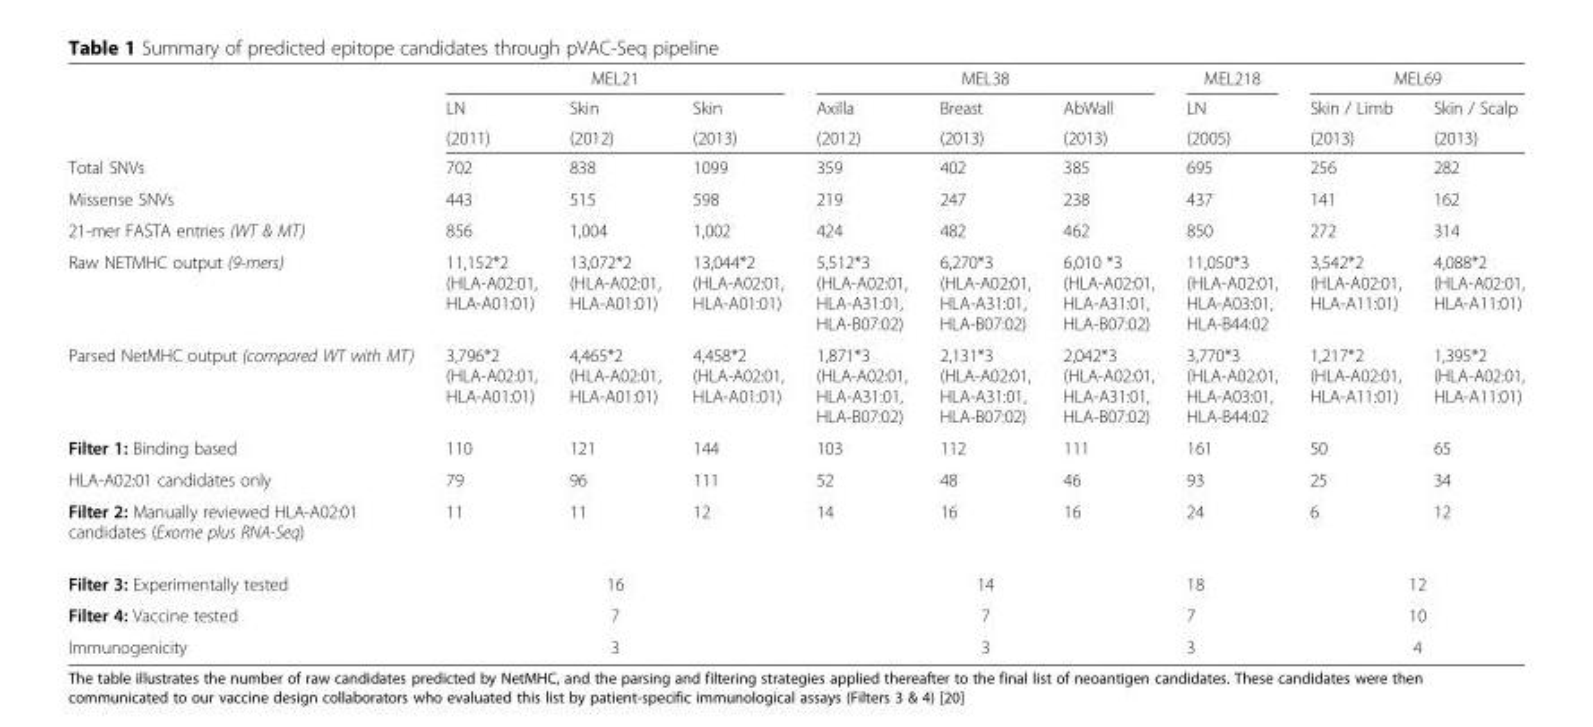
<table><thead><tr><td rowspan="3"></td><td colspan="3">MEL21</td><td colspan="3">MEL38</td><td rowspan="3">MEL218 LN (2005)</td><td colspan="2">MEL69</td></tr><tr><td rowspan="2">LN (2011)</td><td rowspan="2">Skin (2012)</td><td rowspan="2">Skin (2013)</td><td rowspan="2">Axilla (2012)</td><td rowspan="2">Breast (2013)</td><td rowspan="2">AbWall (2013)</td><td rowspan="2">Skin / Limb (2013)</td><td rowspan="2">Skin / Scalp (2013)</td></tr><tr></tr></thead><tbody><tr><td>Total SNVs</td><td>702</td><td>838</td><td>1099</td><td>359</td><td>402</td><td>385</td><td>695</td><td>256</td><td>282</td></tr><tr><td>Missense SNVs</td><td>443</td><td>515</td><td>598</td><td>219</td><td>247</td><td>238</td><td>437</td><td>141</td><td>162</td></tr><tr><td>21-mer FASTA entries (WT &amp; MT)</td><td>856</td><td>1,004</td><td>1,002</td><td>424</td><td>482</td><td>462</td><td>850</td><td>272</td><td>314</td></tr><tr><td>Raw NETMHC output (9-mers)</td><td>11,152*2 (HLA-A02:01, HLA-A01:01)</td><td>13,072*2 (HLA-A02:01, HLA-A01:01)</td><td>13,044*2 (HLA-A02:01, HLA-A01:01)</td><td>5,512*3 (HLA-A02:01, HLA-A31:01, HLA-B07:02)</td><td>6,270*3 (HLA-A02:01, HLA-A31:01, HLA-B07:02)</td><td>6,010 *3 (HLA-A02:01, HLA-A31:01, HLA-B07:02)</td><td>11,050*3 (HLA-A02:01, HLA-A03:01, HLA-B44:02</td><td>3,542*2 (HLA-A02:01, HLA-A11:01)</td><td>4,088*2 (HLA-A02:01, HLA-A11:01)</td></tr><tr><td>Parsed NetMHC output (compared WT with MT)</td><td>3,796*2 (HLA-A02:01, HLA-A01:01)</td><td>4,465*2 (HLA-A02:01, HLA-A01:01)</td><td>4,458*2 (HLA-A02:01, HLA-A01:01)</td><td>1,871*3 (HLA-A02:01, HLA-A31:01, HLA-B07:02)</td><td>2,131*3 (HLA-A02:01, HLA-A31:01, HLA-B07:02)</td><td>2,042*3 (HLA-A02:01, HLA-A31:01, HLA-B07:02)</td><td>3,770*3 (HLA-A02:01, HLA-A03:01, HLA-B44:02</td><td>1,217*2 (HLA-A02:01, HLA-A11:01)</td><td>1,395*2 (HLA-A02:01, HLA-A11:01)</td></tr><tr><td>Filter 1: Binding based</td><td>110</td><td>121</td><td>144</td><td>103</td><td>112</td><td>111</td><td>161</td><td>50</td><td>65</td></tr><tr><td>HLA-A02:01 candidates only</td><td>79</td><td>96</td><td>111</td><td>52</td><td>48</td><td>46</td><td>93</td><td>25</td><td>34</td></tr><tr><td>Filter 2: Manually reviewed HLA-A02:01 candidates (Exome plus RNA-Seq)</td><td>11</td><td>11</td><td>12</td><td>14</td><td>16</td><td>16</td><td>24</td><td>6</td><td>12</td></tr><tr><td>Filter 3: Experimentally tested</td><td colspan="3">16</td><td colspan="3">14</td><td>18</td><td colspan="2">12</td></tr><tr><td>Filter 4: Vaccine tested</td><td colspan="3">7</td><td colspan="3">7</td><td>7</td><td colspan="2">10</td></tr><tr><td>Immunogenicity</td><td colspan="3">3</td><td colspan="3">3</td><td>3</td><td colspan="2">4</td></tr></tbody></table>